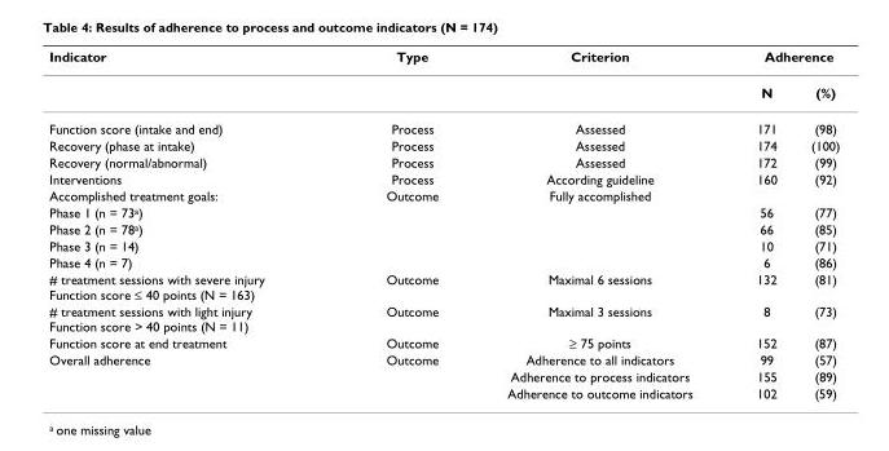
<table><thead><tr><td rowspan="2">Indicator</td><td rowspan="2">Type</td><td rowspan="2">Criterion</td><td colspan="2">Adherence</td></tr><tr><td>N</td><td>(%)</td></tr></thead><tbody><tr><td>Function score (intake and end)</td><td>Process</td><td>Assessed</td><td>171</td><td>(98)</td></tr><tr><td>Recovery (phase at intake)</td><td>Process</td><td>Assessed</td><td>174</td><td>(100)</td></tr><tr><td>Recovery (normal/abnormal)</td><td>Process</td><td>Assessed</td><td>172</td><td>(99)</td></tr><tr><td>Interventions</td><td>Process</td><td>According guideline</td><td>160</td><td>(92)</td></tr><tr><td>Accomplished treatment goals:</td><td>Outcome</td><td>Fully accomplished</td><td></td><td></td></tr><tr><td>Phase 1 (n = 73a)</td><td></td><td></td><td>56</td><td>(77)</td></tr><tr><td>Phase 2 (n = 78a)</td><td></td><td></td><td>66</td><td>(85)</td></tr><tr><td>Phase 3 (n = 14)</td><td></td><td></td><td>10</td><td>(71)</td></tr><tr><td>Phase 4 (n = 7)</td><td></td><td></td><td>6</td><td>(86)</td></tr><tr><td># treatment sessions with severe injury Function score ≤ 40 points (N = 163)</td><td>Outcome</td><td>Maximal 6 sessions</td><td>132</td><td>(81)</td></tr><tr><td># treatment sessions with light injury Function score &gt; 40 points (N = 11)</td><td>Outcome</td><td>Maximal 3 sessions</td><td>8</td><td>(73)</td></tr><tr><td>Function score at end treatment</td><td>Outcome</td><td>≥ 75 points</td><td>152</td><td>(87)</td></tr><tr><td rowspan="3">Overall adherence</td><td>Outcome</td><td>Adherence to all indicators</td><td>99</td><td>(57)</td></tr><tr><td></td><td>Adherence to process indicators</td><td>155</td><td>(89)</td></tr><tr><td></td><td>Adherence to outcome indicators</td><td>102</td><td>(59)</td></tr></tbody></table>